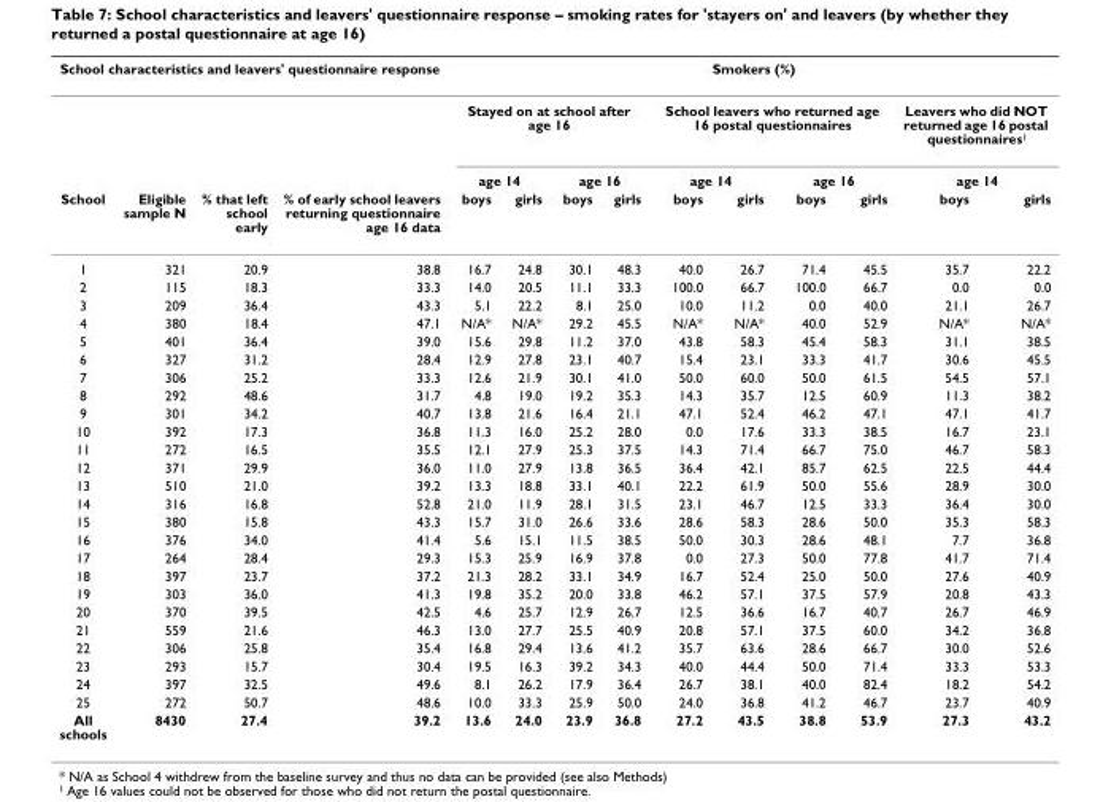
<table><thead><tr><td colspan="4">School characteristics and leavers&#x27; questionnaire response</td><td colspan="10">Smokers (%)</td></tr><tr><td rowspan="3">School</td><td rowspan="3">Eligible sample N</td><td rowspan="3">% that left school early</td><td rowspan="3">% of early school leavers returning questionnaire age 16 data</td><td colspan="4">Stayed on at school after age 16</td><td colspan="4">School leavers who returned age 16 postal questionnaires</td><td rowspan="2" colspan="2">Leavers who did NOT returned age 16 postal questionnaires<sup>1</sup> age 14</td></tr><tr><td colspan="2">age 14</td><td colspan="2">age 16</td><td colspan="2">age 14</td><td colspan="2">age 16</td></tr><tr><td>boys</td><td>girls</td><td>boys</td><td>girls</td><td>boys</td><td>girls</td><td>boys</td><td>girls</td><td>boys</td><td>girls</td></tr></thead><tbody><tr><td>1</td><td>321</td><td>20.9</td><td>38.8</td><td>16.7</td><td>24.8</td><td>30.1</td><td>48.3</td><td>40.0</td><td>26.7</td><td>71.4</td><td>45.5</td><td>35.7</td><td>22.2</td></tr><tr><td>2</td><td>115</td><td>18.3</td><td>33.3</td><td>14.0</td><td>20.5</td><td>11.1</td><td>33.3</td><td>100.0</td><td>66.7</td><td>100.0</td><td>66.7</td><td>0.0</td><td>0.0</td></tr><tr><td>3</td><td>209</td><td>36.4</td><td>43.3</td><td>5.1</td><td>22.2</td><td>8.1</td><td>25.0</td><td>10.0</td><td>11.2</td><td>0.0</td><td>40.0</td><td>21.1</td><td>26.7</td></tr><tr><td>4</td><td>380</td><td>18.4</td><td>47.1</td><td>N/A*</td><td>N/A*</td><td>29.2</td><td>45.5</td><td>N/A*</td><td>N/A*</td><td>40.0</td><td>52.9</td><td>N/A*</td><td>N/A*</td></tr><tr><td>5</td><td>401</td><td>36.4</td><td>39.0</td><td>15.6</td><td>29.8</td><td>11.2</td><td>37.0</td><td>43.8</td><td>58.3</td><td>45.4</td><td>58.3</td><td>31.1</td><td>38.5</td></tr><tr><td>6</td><td>327</td><td>31.2</td><td>28.4</td><td>12.9</td><td>27.8</td><td>23.1</td><td>40.7</td><td>15.4</td><td>23.1</td><td>33.3</td><td>41.7</td><td>30.6</td><td>45.5</td></tr><tr><td>7</td><td>306</td><td>25.2</td><td>33.3</td><td>12.6</td><td>21.9</td><td>30.1</td><td>41.0</td><td>50.0</td><td>60.0</td><td>50.0</td><td>61.5</td><td>54.5</td><td>57.1</td></tr><tr><td>8</td><td>292</td><td>48.6</td><td>31.7</td><td>4.8</td><td>19.0</td><td>19.2</td><td>35.3</td><td>14.3</td><td>35.7</td><td>12.5</td><td>60.9</td><td>11.3</td><td>38.2</td></tr><tr><td>9</td><td>301</td><td>34.2</td><td>40.7</td><td>13.8</td><td>21.6</td><td>16.4</td><td>21.1</td><td>47.1</td><td>52.4</td><td>46.2</td><td>47.1</td><td>47.1</td><td>41.7</td></tr><tr><td>10</td><td>392</td><td>17.3</td><td>36.8</td><td>11.3</td><td>16.0</td><td>25.2</td><td>28.0</td><td>0.0</td><td>17.6</td><td>33.3</td><td>38.5</td><td>16.7</td><td>23.1</td></tr><tr><td>11</td><td>272</td><td>16.5</td><td>35.5</td><td>12.1</td><td>27.9</td><td>25.3</td><td>37.5</td><td>14.3</td><td>71.4</td><td>66.7</td><td>75.0</td><td>46.7</td><td>58.3</td></tr><tr><td>12</td><td>371</td><td>29.9</td><td>36.0</td><td>11.0</td><td>27.9</td><td>13.8</td><td>36.5</td><td>36.4</td><td>42.1</td><td>85.7</td><td>62.5</td><td>22.5</td><td>44.4</td></tr><tr><td>13</td><td>510</td><td>21.0</td><td>39.2</td><td>13.3</td><td>18.8</td><td>33.1</td><td>40.1</td><td>22.2</td><td>61.9</td><td>50.0</td><td>55.6</td><td>28.9</td><td>30.0</td></tr><tr><td>14</td><td>316</td><td>16.8</td><td>52.8</td><td>21.0</td><td>11.9</td><td>28.1</td><td>31.5</td><td>23.1</td><td>46.7</td><td>12.5</td><td>33.3</td><td>36.4</td><td>30.0</td></tr><tr><td>15</td><td>380</td><td>15.8</td><td>43.3</td><td>15.7</td><td>31.0</td><td>26.6</td><td>33.6</td><td>28.6</td><td>58.3</td><td>28.6</td><td>50.0</td><td>35.3</td><td>58.3</td></tr><tr><td>16</td><td>376</td><td>34.0</td><td>41.4</td><td>5.6</td><td>15.1</td><td>11.5</td><td>38.5</td><td>50.0</td><td>30.3</td><td>28.6</td><td>48.1</td><td>7.7</td><td>36.8</td></tr><tr><td>17</td><td>264</td><td>28.4</td><td>29.3</td><td>15.3</td><td>25.9</td><td>16.9</td><td>37.8</td><td>0.0</td><td>27.3</td><td>50.0</td><td>77.8</td><td>41.7</td><td>71.4</td></tr><tr><td>18</td><td>397</td><td>23.7</td><td>37.2</td><td>21.3</td><td>28.2</td><td>33.1</td><td>34.9</td><td>16.7</td><td>52.4</td><td>25.0</td><td>50.0</td><td>27.6</td><td>40.9</td></tr><tr><td>19</td><td>303</td><td>36.0</td><td>41.3</td><td>19.8</td><td>35.2</td><td>20.0</td><td>33.8</td><td>46.2</td><td>57.1</td><td>37.5</td><td>57.9</td><td>20.8</td><td>43.3</td></tr><tr><td>20</td><td>370</td><td>39.5</td><td>42.5</td><td>4.6</td><td>25.7</td><td>12.9</td><td>26.7</td><td>12.5</td><td>36.6</td><td>16.7</td><td>40.7</td><td>26.7</td><td>46.9</td></tr><tr><td>21</td><td>559</td><td>21.6</td><td>46.3</td><td>13.0</td><td>27.7</td><td>25.5</td><td>40.9</td><td>20.8</td><td>57.1</td><td>37.5</td><td>60.0</td><td>34.2</td><td>36.8</td></tr><tr><td>22</td><td>306</td><td>25.8</td><td>35.4</td><td>16.8</td><td>29.4</td><td>13.6</td><td>41.2</td><td>35.7</td><td>63.6</td><td>28.6</td><td>66.7</td><td>30.0</td><td>52.6</td></tr><tr><td>23</td><td>293</td><td>15.7</td><td>30.4</td><td>19.5</td><td>16.3</td><td>39.2</td><td>34.3</td><td>40.0</td><td>44.4</td><td>50.0</td><td>71.4</td><td>33.3</td><td>53.3</td></tr><tr><td>24</td><td>397</td><td>32.5</td><td>49.6</td><td>8.1</td><td>26.2</td><td>17.9</td><td>36.4</td><td>26.7</td><td>38.1</td><td>40.0</td><td>82.4</td><td>18.2</td><td>54.2</td></tr><tr><td>25</td><td>272</td><td>50.7</td><td>48.6</td><td>10.0</td><td>33.3</td><td>25.9</td><td>50.0</td><td>24.0</td><td>36.8</td><td>41.2</td><td>46.7</td><td>23.7</td><td>40.9</td></tr><tr><td>All schools</td><td>8430</td><td>27.4</td><td>39.2</td><td>13.6</td><td>24.0</td><td>23.9</td><td>36.8</td><td>27.2</td><td>43.5</td><td>38.8</td><td>53.9</td><td>27.3</td><td>43.2</td></tr></tbody></table>